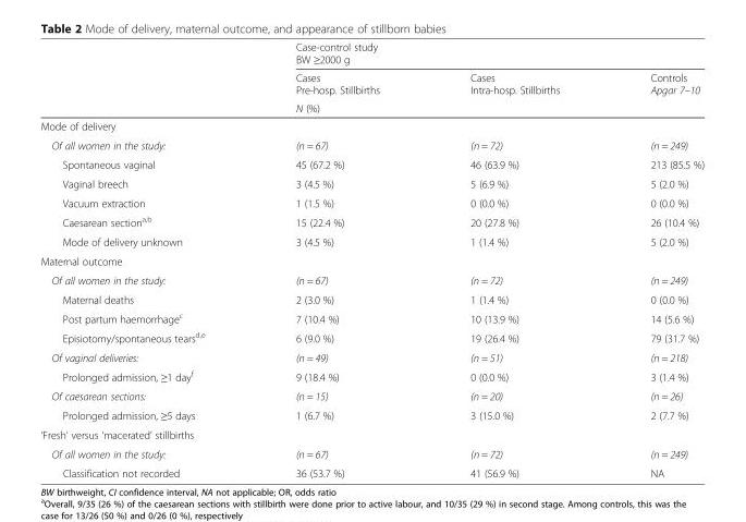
<table><thead><tr><td rowspan="3"></td><td colspan="3">Case-control study BW ≥2000 g</td></tr><tr><td>Cases Pre-hosp. Stillbirths</td><td>Cases Intra-hosp. Stillbirths</td><td>Controls Apgar 7–10</td></tr><tr><td colspan="3">N (%)</td></tr></thead><tbody><tr><td colspan="4">Mode of delivery</td></tr><tr><td>Of all women in the study:</td><td>(n = 67)</td><td>(n = 72)</td><td>(n = 249)</td></tr><tr><td>Spontaneous vaginal</td><td>45 (67.2 %)</td><td>46 (63.9 %)</td><td>213 (85.5 %)</td></tr><tr><td>Vaginal breech</td><td>3 (4.5 %)</td><td>5 (6.9 %)</td><td>5 (2.0 %)</td></tr><tr><td>Vacuum extraction</td><td>1 (1.5 %)</td><td>0 (0.0 %)</td><td>0 (0.0 %)</td></tr><tr><td>Caesarean section<sup>a,b</sup></td><td>15 (22.4 %)</td><td>20 (27.8 %)</td><td>26 (10.4 %)</td></tr><tr><td>Mode of delivery unknown</td><td>3 (4.5 %)</td><td>1 (1.4 %)</td><td>5 (2.0 %)</td></tr><tr><td colspan="4">Maternal outcome</td></tr><tr><td>Of all women in the study:</td><td>(n = 67)</td><td>(n = 72)</td><td>(n = 249)</td></tr><tr><td>Maternal deaths</td><td>2 (3.0 %)</td><td>1 (1.4 %)</td><td>0 (0.0 %)</td></tr><tr><td>Post partum haemorrhage<sup>c</sup></td><td>7 (10.4 %)</td><td>10 (13.9 %)</td><td>14 (5.6 %)</td></tr><tr><td>Episiotomy/spontaneous tears<sup>d,e</sup></td><td>6 (9.0 %)</td><td>19 (26.4 %)</td><td>79 (31.7 %)</td></tr><tr><td>Of vaginal deliveries:</td><td>(n = 49)</td><td>(n = 51)</td><td>(n = 218)</td></tr><tr><td>Prolonged admission, ≥1 day<sup>f</sup></td><td>9 (18.4 %)</td><td>0 (0.0 %)</td><td>3 (1.4 %)</td></tr><tr><td>Of caesarean sections:</td><td>(n = 15)</td><td>(n = 20)</td><td>(n = 26)</td></tr><tr><td>Prolonged admission, ≥5 days</td><td>1 (6.7 %)</td><td>3 (15.0 %)</td><td>2 (7.7 %)</td></tr><tr><td colspan="4">‘Fresh’ versus ‘macerated’ stillbirths</td></tr><tr><td>Of all women in the study:</td><td>(n = 67)</td><td>(n = 72)</td><td>(n = 249)</td></tr><tr><td>Classification not recorded</td><td>36 (53.7 %)</td><td>41 (56.9 %)</td><td>NA</td></tr></tbody></table>